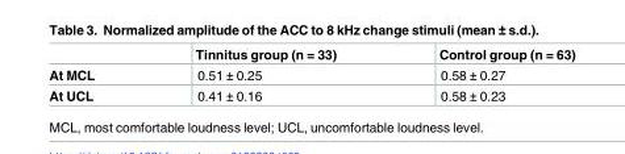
<table><thead><tr><td></td><td>Tinnitus group (n = 33)</td><td>Control group (n = 63)</td></tr></thead><tbody><tr><td>At MCL</td><td>0.51 ± 0.25</td><td>0.58 ± 0.27</td></tr><tr><td>At UCL</td><td>0.41 ± 0.16</td><td>0.58 ± 0.23</td></tr></tbody></table>